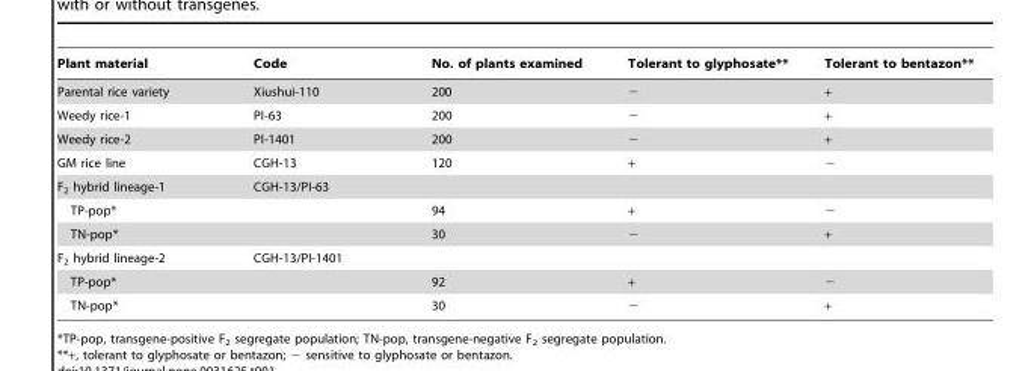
<table><thead><tr><td>Plant material</td><td>Code</td><td>No. of plants examined</td><td>Tolerant to glyphosate**</td><td>Tolerant to bentazon**</td></tr></thead><tbody><tr><td>Parental rice variety</td><td>Xiushui-110</td><td>200</td><td>−</td><td>+</td></tr><tr><td>Weedy rice-1</td><td>PI-63</td><td>200</td><td>−</td><td>+</td></tr><tr><td>Weedy rice-2</td><td>PI-1401</td><td>200</td><td>−</td><td>+</td></tr><tr><td>GM rice line</td><td>CGH-13</td><td>120</td><td>+</td><td>−</td></tr><tr><td>F<sub>2</sub> hybrid lineage-1</td><td>CGH-13/PI-63</td><td></td><td></td><td></td></tr><tr><td>TP-pop*</td><td></td><td>94</td><td>+</td><td>−</td></tr><tr><td>TN-pop*</td><td></td><td>30</td><td>−</td><td>+</td></tr><tr><td>F<sub>2</sub> hybrid lineage-2</td><td>CGH-13/PI-1401</td><td></td><td></td><td></td></tr><tr><td>TP-pop*</td><td></td><td>92</td><td>+</td><td>−</td></tr><tr><td>TN-pop*</td><td></td><td>30</td><td>−</td><td>+</td></tr></tbody></table>